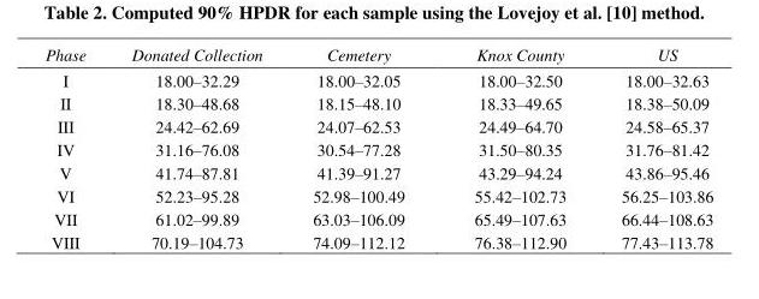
<table><thead><tr><td>Phase</td><td>Donated Collection</td><td>Cemetery</td><td>Knox County</td><td>US</td></tr></thead><tbody><tr><td>I</td><td>18.00–32.29</td><td>18.00–32.05</td><td>18.00–32.50</td><td>18.00–32.63</td></tr><tr><td>II</td><td>18.30–48.68</td><td>18.15–48.10</td><td>18.33–49.65</td><td>18.38–50.09</td></tr><tr><td>III</td><td>24.42–62.69</td><td>24.07–62.53</td><td>24.49–64.70</td><td>24.58–65.37</td></tr><tr><td>IV</td><td>31.16–76.08</td><td>30.54–77.28</td><td>31.50–80.35</td><td>31.76–81.42</td></tr><tr><td>V</td><td>41.74–87.81</td><td>41.39–91.27</td><td>43.29–94.24</td><td>43.86–95.46</td></tr><tr><td>VI</td><td>52.23–95.28</td><td>52.98–100.49</td><td>55.42–102.73</td><td>56.25–103.86</td></tr><tr><td>VII</td><td>61.02–99.89</td><td>63.03–106.09</td><td>65.49–107.63</td><td>66.44–108.63</td></tr><tr><td>VIII</td><td>70.19–104.73</td><td>74.09–112.12</td><td>76.38–112.90</td><td>77.43–113.78</td></tr></tbody></table>